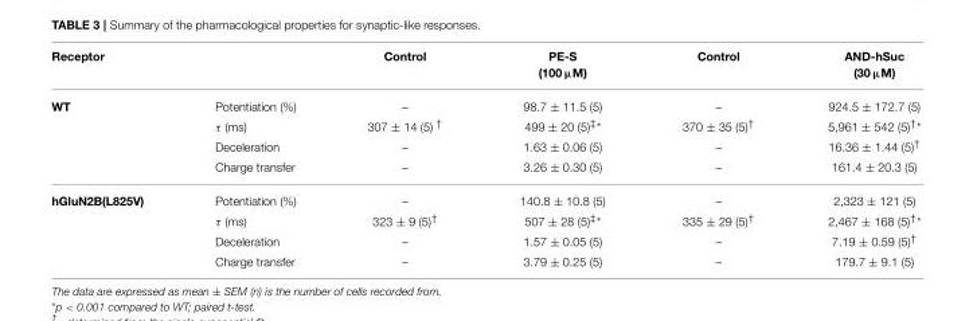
<table><thead><tr><td>Receptor</td><td></td><td>Control</td><td>PE-S (100 µM)</td><td>Control</td><td>AND-hSuc (30 µM)</td></tr></thead><tbody><tr><td rowspan="4">WT</td><td>Potentiation (%)</td><td>–</td><td>98.7 ± 11.5 (5)</td><td>–</td><td>924.5 ± 172.7 (5)</td></tr><tr><td>τ (ms)</td><td>307 ± 14 (5) <sup>†</sup></td><td>499 ± 20 (5)<sup>‡*</sup></td><td>370 ± 35 (5)<sup>†</sup></td><td>5,961 ± 542 (5)<sup>†*</sup></td></tr><tr><td>Deceleration</td><td>–</td><td>1.63 ± 0.06 (5)</td><td>–</td><td>16.36 ± 1.44 (5)<sup>†</sup></td></tr><tr><td>Charge transfer</td><td>–</td><td>3.26 ± 0.30 (5)</td><td>–</td><td>161.4 ± 20.3 (5)</td></tr><tr><td rowspan="4">hGluN2B(L825V)</td><td>Potentiation (%)</td><td>–</td><td>140.8 ± 10.8 (5)</td><td>–</td><td>2,323 ± 121 (5)</td></tr><tr><td>τ (ms)</td><td>323 ± 9 (5)<sup>†</sup></td><td>507 ± 28 (5)<sup>‡*</sup></td><td>335 ± 29 (5)<sup>†</sup></td><td>2,467 ± 168 (5)<sup>†*</sup></td></tr><tr><td>Deceleration</td><td>–</td><td>1.57 ± 0.05 (5)</td><td>–</td><td>7.19 ± 0.59 (5)<sup>†</sup></td></tr><tr><td>Charge transfer</td><td>–</td><td>3.79 ± 0.25 (5)</td><td>–</td><td>179.7 ± 9.1 (5)</td></tr></tbody></table>